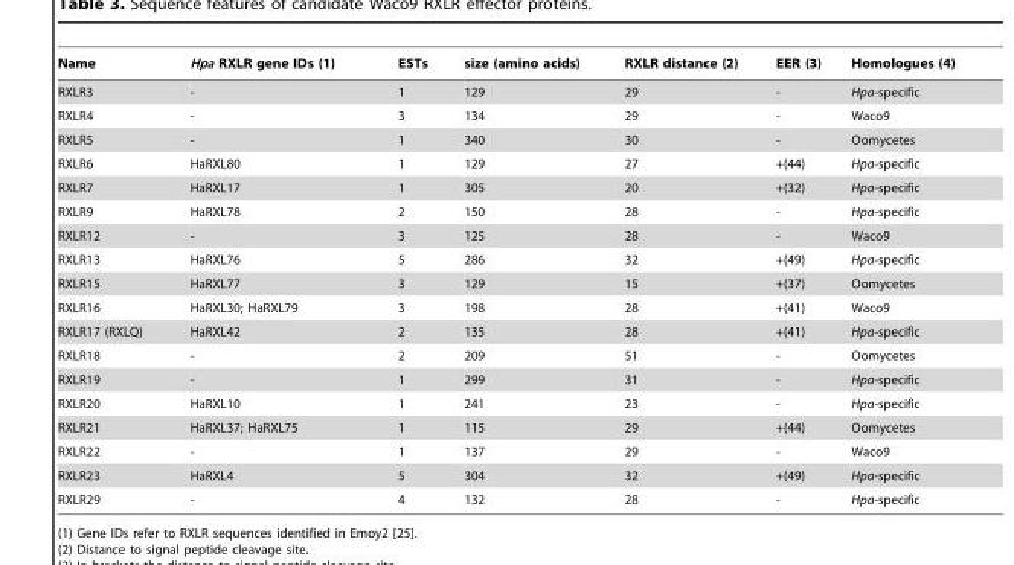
<table><thead><tr><td>Name</td><td>Hpa RXLR gene IDs (1)</td><td>ESTs</td><td>size (amino acids)</td><td>RXLR distance (2)</td><td>EER (3)</td><td>Homologues (4)</td></tr></thead><tbody><tr><td>RXLR3</td><td>-</td><td>1</td><td>129</td><td>29</td><td>-</td><td>Hpa-specific</td></tr><tr><td>RXLR4</td><td>-</td><td>3</td><td>134</td><td>29</td><td>-</td><td>Waco9</td></tr><tr><td>RXLR5</td><td>-</td><td>1</td><td>340</td><td>30</td><td>-</td><td>Oomycetes</td></tr><tr><td>RXLR6</td><td>HaRXL80</td><td>1</td><td>129</td><td>27</td><td>+(44)</td><td>Hpa-specific</td></tr><tr><td>RXLR7</td><td>HaRXL17</td><td>1</td><td>305</td><td>20</td><td>+(32)</td><td>Hpa-specific</td></tr><tr><td>RXLR9</td><td>HaRXL78</td><td>2</td><td>150</td><td>28</td><td>-</td><td>Hpa-specific</td></tr><tr><td>RXLR12</td><td>-</td><td>3</td><td>125</td><td>28</td><td>-</td><td>Waco9</td></tr><tr><td>RXLR13</td><td>HaRXL76</td><td>5</td><td>286</td><td>32</td><td>+(49)</td><td>Hpa-specific</td></tr><tr><td>RXLR15</td><td>HaRXL77</td><td>3</td><td>129</td><td>15</td><td>+(37)</td><td>Oomycetes</td></tr><tr><td>RXLR16</td><td>HaRXL30; HaRXL79</td><td>3</td><td>198</td><td>28</td><td>+(41)</td><td>Waco9</td></tr><tr><td>RXLR17 (RXLQ)</td><td>HaRXL42</td><td>2</td><td>135</td><td>28</td><td>+(41)</td><td>Hpa-specific</td></tr><tr><td>RXLR18</td><td>-</td><td>2</td><td>209</td><td>51</td><td>-</td><td>Oomycetes</td></tr><tr><td>RXLR19</td><td>-</td><td>1</td><td>299</td><td>31</td><td>-</td><td>Hpa-specific</td></tr><tr><td>RXLR20</td><td>HaRXL10</td><td>1</td><td>241</td><td>23</td><td>-</td><td>Hpa-specific</td></tr><tr><td>RXLR21</td><td>HaRXL37; HaRXL75</td><td>1</td><td>115</td><td>29</td><td>+(44)</td><td>Oomycetes</td></tr><tr><td>RXLR22</td><td>-</td><td>1</td><td>137</td><td>29</td><td>-</td><td>Waco9</td></tr><tr><td>RXLR23</td><td>HaRXL4</td><td>5</td><td>304</td><td>32</td><td>+(49)</td><td>Hpa-specific</td></tr><tr><td>RXLR29</td><td>-</td><td>4</td><td>132</td><td>28</td><td>-</td><td>Hpa-specific</td></tr></tbody></table>